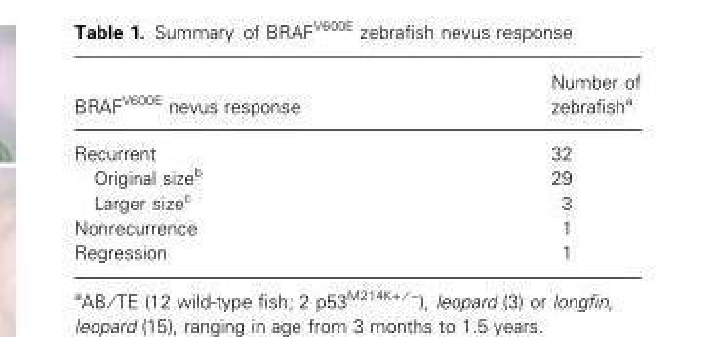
<table><thead><tr><td>BRAF<sup>V600E</sup> nevus response</td><td>Number of zebrafish<sup>a</sup></td></tr></thead><tbody><tr><td>Recurrent</td><td>32</td></tr><tr><td>Original size<sup>b</sup></td><td>29</td></tr><tr><td>Larger size<sup>c</sup></td><td>3</td></tr><tr><td>Nonrecurrence</td><td>1</td></tr><tr><td>Regression</td><td>1</td></tr></tbody></table>